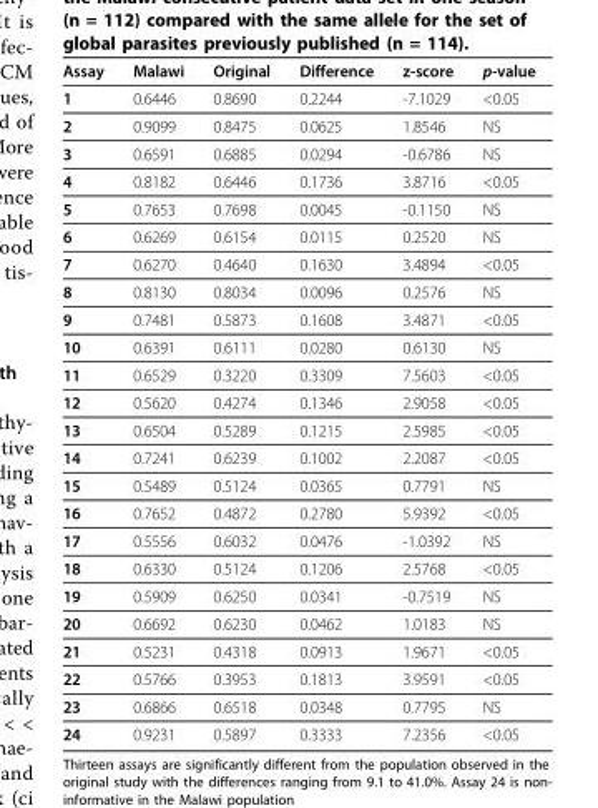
<table><thead><tr><td>Assay</td><td>Malawi</td><td>Original</td><td>Difference</td><td>z-score</td><td>p-value</td></tr></thead><tbody><tr><td>1</td><td>0.6446</td><td>0.8690</td><td>0.2244</td><td>-7.1029</td><td>&lt;0.05</td></tr><tr><td>2</td><td>0.9099</td><td>0.8475</td><td>0.0625</td><td>1.8546</td><td>NS</td></tr><tr><td>3</td><td>0.6591</td><td>0.6885</td><td>0.0294</td><td>-0.6786</td><td>NS</td></tr><tr><td>4</td><td>0.8182</td><td>0.6446</td><td>0.1736</td><td>3.8716</td><td>&lt;0.05</td></tr><tr><td>5</td><td>0.7653</td><td>0.7698</td><td>0.0045</td><td>-0.1150</td><td>NS</td></tr><tr><td>6</td><td>0.6269</td><td>0.6154</td><td>0.0115</td><td>0.2520</td><td>NS</td></tr><tr><td>7</td><td>0.6270</td><td>0.4640</td><td>0.1630</td><td>3.4894</td><td>&lt;0.05</td></tr><tr><td>8</td><td>0.8130</td><td>0.8034</td><td>0.0096</td><td>0.2576</td><td>NS</td></tr><tr><td>9</td><td>0.7481</td><td>0.5873</td><td>0.1608</td><td>3.4871</td><td>&lt;0.05</td></tr><tr><td>10</td><td>0.6391</td><td>0.6111</td><td>0.0280</td><td>0.6130</td><td>NS</td></tr><tr><td>11</td><td>0.6529</td><td>0.3220</td><td>0.3309</td><td>7.5603</td><td>&lt;0.05</td></tr><tr><td>12</td><td>0.5620</td><td>0.4274</td><td>0.1346</td><td>2.9058</td><td>&lt;0.05</td></tr><tr><td>13</td><td>0.6504</td><td>0.5289</td><td>0.1215</td><td>2.5985</td><td>&lt;0.05</td></tr><tr><td>14</td><td>0.7241</td><td>0.6239</td><td>0.1002</td><td>2.2087</td><td>&lt;0.05</td></tr><tr><td>15</td><td>0.5489</td><td>0.5124</td><td>0.0365</td><td>0.7791</td><td>NS</td></tr><tr><td>16</td><td>0.7652</td><td>0.4872</td><td>0.2780</td><td>5.9392</td><td>&lt;0.05</td></tr><tr><td>17</td><td>0.5556</td><td>0.6032</td><td>0.0476</td><td>-1.0392</td><td>NS</td></tr><tr><td>18</td><td>0.6330</td><td>0.5124</td><td>0.1206</td><td>2.5768</td><td>&lt;0.05</td></tr><tr><td>19</td><td>0.5909</td><td>0.6250</td><td>0.0341</td><td>-0.7519</td><td>NS</td></tr><tr><td>20</td><td>0.6692</td><td>0.6230</td><td>0.0462</td><td>1.0183</td><td>NS</td></tr><tr><td>21</td><td>0.5231</td><td>0.4318</td><td>0.0913</td><td>1.9671</td><td>&lt;0.05</td></tr><tr><td>22</td><td>0.5766</td><td>0.3953</td><td>0.1813</td><td>3.9591</td><td>&lt;0.05</td></tr><tr><td>23</td><td>0.6866</td><td>0.6518</td><td>0.0348</td><td>0.7795</td><td>NS</td></tr><tr><td>24</td><td>0.9231</td><td>0.5897</td><td>0.3333</td><td>7.2356</td><td>&lt;0.05</td></tr></tbody></table>